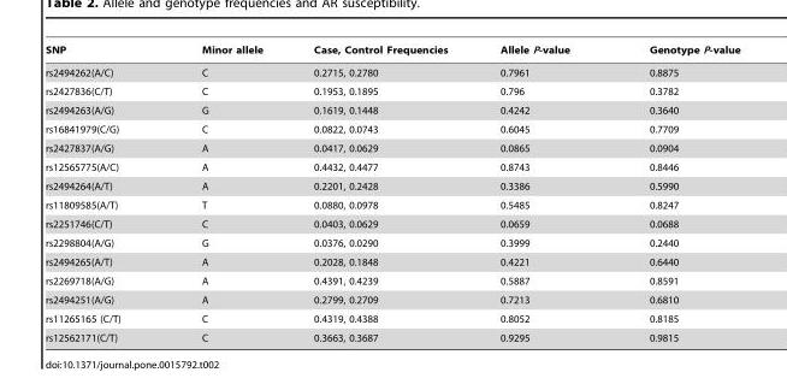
<table><thead><tr><td>SNP</td><td>Minor allele</td><td>Case, Control Frequencies</td><td>Allele P-value</td><td>Genotype P-value</td></tr></thead><tbody><tr><td>rs2494262(A/C)</td><td>C</td><td>0.2715, 0.2780</td><td>0.7961</td><td>0.8875</td></tr><tr><td>rs2427836(C/T)</td><td>C</td><td>0.1953, 0.1895</td><td>0.796</td><td>0.3782</td></tr><tr><td>rs2494263(A/G)</td><td>G</td><td>0.1619, 0.1448</td><td>0.4242</td><td>0.3640</td></tr><tr><td>rs16841979(C/G)</td><td>C</td><td>0.0822, 0.0743</td><td>0.6045</td><td>0.7709</td></tr><tr><td>rs2427837(A/G)</td><td>A</td><td>0.0417, 0.0629</td><td>0.0865</td><td>0.0904</td></tr><tr><td>rs12565775(A/C)</td><td>A</td><td>0.4432, 0.4477</td><td>0.8743</td><td>0.8446</td></tr><tr><td>rs2494264(A/T)</td><td>A</td><td>0.2201, 0.2428</td><td>0.3386</td><td>0.5990</td></tr><tr><td>rs11809585(A/T)</td><td>T</td><td>0.0880, 0.0978</td><td>0.5485</td><td>0.8247</td></tr><tr><td>rs2251746(C/T)</td><td>C</td><td>0.0403, 0.0629</td><td>0.0659</td><td>0.0688</td></tr><tr><td>rs2298804(A/G)</td><td>G</td><td>0.0376, 0.0290</td><td>0.3999</td><td>0.2440</td></tr><tr><td>rs2494265(A/T)</td><td>A</td><td>0.2028, 0.1848</td><td>0.4221</td><td>0.6440</td></tr><tr><td>rs2269718(A/G)</td><td>A</td><td>0.4391, 0.4239</td><td>0.5887</td><td>0.8591</td></tr><tr><td>rs2494251(A/G)</td><td>A</td><td>0.2799, 0.2709</td><td>0.7213</td><td>0.6810</td></tr><tr><td>rs11265165 (C/T)</td><td>C</td><td>0.4319, 0.4388</td><td>0.8052</td><td>0.8185</td></tr><tr><td>rs12562171(C/T)</td><td>C</td><td>0.3663, 0.3687</td><td>0.9295</td><td>0.9815</td></tr></tbody></table>